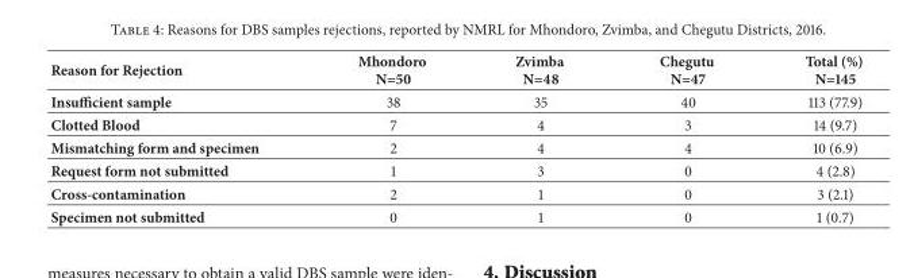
<table><thead><tr><td>Reason for Rejection</td><td>Mhondoro N=50</td><td>Zvimba N=48</td><td>Chegutu N=47</td><td>Total (%) N=145</td></tr></thead><tbody><tr><td>Insufficient sample</td><td>38</td><td>35</td><td>40</td><td>113 (77.9)</td></tr><tr><td>Clotted Blood</td><td>7</td><td>4</td><td>3</td><td>14 (9.7)</td></tr><tr><td>Mismatching form and specimen</td><td>2</td><td>4</td><td>4</td><td>10 (6.9)</td></tr><tr><td>Request form not submitted</td><td>1</td><td>3</td><td>0</td><td>4 (2.8)</td></tr><tr><td>Cross-contamination</td><td>2</td><td>1</td><td>0</td><td>3 (2.1)</td></tr><tr><td>Specimen not submitted</td><td>0</td><td>1</td><td>0</td><td>1 (0.7)</td></tr></tbody></table>